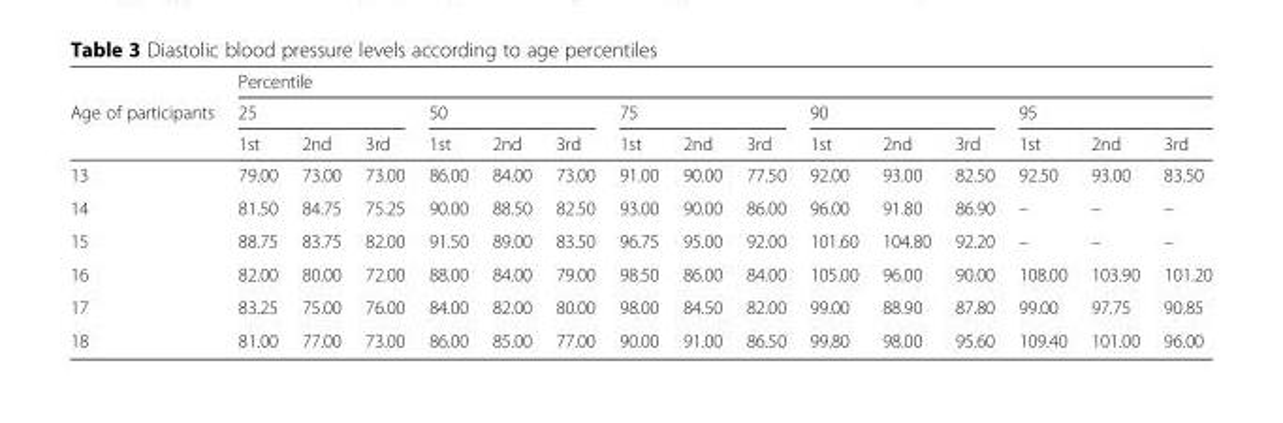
<table><thead><tr><td rowspan="3">Age of participants</td><td colspan="15">Percentile</td></tr><tr><td colspan="3">25</td><td colspan="3">50</td><td colspan="3">75</td><td colspan="3">90</td><td colspan="3">95</td></tr><tr><td>1st</td><td>2nd</td><td>3rd</td><td>1st</td><td>2nd</td><td>3rd</td><td>1st</td><td>2nd</td><td>3rd</td><td>1st</td><td>2nd</td><td>3rd</td><td>1st</td><td>2nd</td><td>3rd</td></tr></thead><tbody><tr><td>13</td><td>79.00</td><td>73.00</td><td>73.00</td><td>86.00</td><td>84.00</td><td>73.00</td><td>91.00</td><td>90.00</td><td>77.50</td><td>92.00</td><td>93.00</td><td>82.50</td><td>92.50</td><td>93.00</td><td>83.50</td></tr><tr><td>14</td><td>81.50</td><td>84.75</td><td>75.25</td><td>90.00</td><td>88.50</td><td>82.50</td><td>93.00</td><td>90.00</td><td>86.00</td><td>96.00</td><td>91.80</td><td>86.90</td><td>–</td><td>–</td><td>–</td></tr><tr><td>15</td><td>88.75</td><td>83.75</td><td>82.00</td><td>91.50</td><td>89.00</td><td>83.50</td><td>96.75</td><td>95.00</td><td>92.00</td><td>101.60</td><td>104.80</td><td>92.20</td><td>–</td><td>–</td><td>–</td></tr><tr><td>16</td><td>82.00</td><td>80.00</td><td>72.00</td><td>88.00</td><td>84.00</td><td>79.00</td><td>98.50</td><td>86.00</td><td>84.00</td><td>105.00</td><td>96.00</td><td>90.00</td><td>108.00</td><td>103.90</td><td>101.20</td></tr><tr><td>17</td><td>83.25</td><td>75.00</td><td>76.00</td><td>84.00</td><td>82.00</td><td>80.00</td><td>98.00</td><td>84.50</td><td>82.00</td><td>99.00</td><td>88.90</td><td>87.80</td><td>99.00</td><td>97.75</td><td>90.85</td></tr><tr><td>18</td><td>81.00</td><td>77.00</td><td>73.00</td><td>86.00</td><td>85.00</td><td>77.00</td><td>90.00</td><td>91.00</td><td>86.50</td><td>99.80</td><td>98.00</td><td>95.60</td><td>109.40</td><td>101.00</td><td>96.00</td></tr></tbody></table>